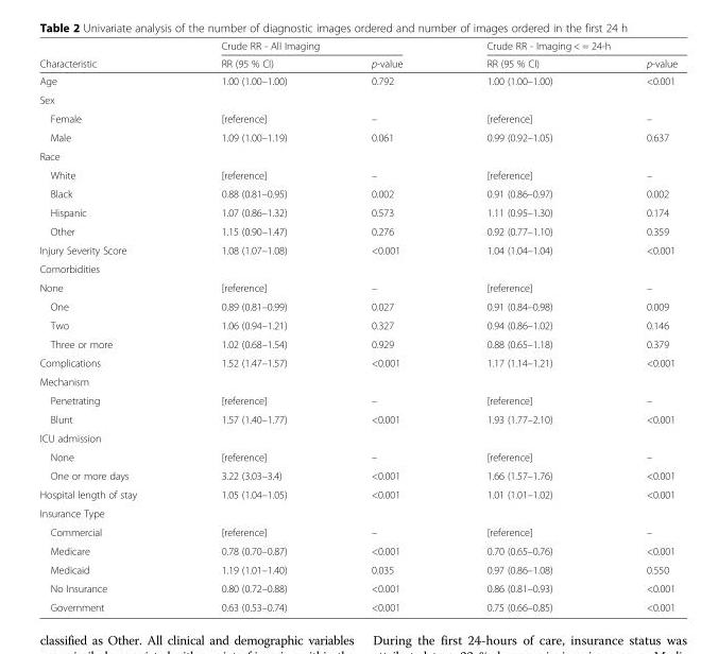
<table><thead><tr><td rowspan="2">Characteristic</td><td colspan="2">Crude RR - All Imaging</td><td colspan="2">Crude RR - Imaging &lt; = 24-h</td></tr><tr><td>RR (95 % CI)</td><td>p-value</td><td>RR (95 % CI)</td><td>p-value</td></tr></thead><tbody><tr><td>Age</td><td>1.00 (1.00–1.00)</td><td>0.792</td><td>1.00 (1.00–1.00)</td><td>&lt;0.001</td></tr><tr><td colspan="5">Sex</td></tr><tr><td>Female</td><td>[reference]</td><td>–</td><td>[reference]</td><td>–</td></tr><tr><td>Male</td><td>1.09 (1.00–1.19)</td><td>0.061</td><td>0.99 (0.92–1.05)</td><td>0.637</td></tr><tr><td colspan="5">Race</td></tr><tr><td>White</td><td>[reference]</td><td>–</td><td>[reference]</td><td>–</td></tr><tr><td>Black</td><td>0.88 (0.81–0.95)</td><td>0.002</td><td>0.91 (0.86–0.97)</td><td>0.002</td></tr><tr><td>Hispanic</td><td>1.07 (0.86–1.32)</td><td>0.573</td><td>1.11 (0.95–1.30)</td><td>0.174</td></tr><tr><td>Other</td><td>1.15 (0.90–1.47)</td><td>0.276</td><td>0.92 (0.77–1.10)</td><td>0.359</td></tr><tr><td>Injury Severity Score</td><td>1.08 (1.07–1.08)</td><td>&lt;0.001</td><td>1.04 (1.04–1.04)</td><td>&lt;0.001</td></tr><tr><td colspan="5">Comorbidities</td></tr><tr><td>None</td><td>[reference]</td><td>–</td><td>[reference]</td><td>–</td></tr><tr><td>One</td><td>0.89 (0.81–0.99)</td><td>0.027</td><td>0.91 (0.84–0.98)</td><td>0.009</td></tr><tr><td>Two</td><td>1.06 (0.94–1.21)</td><td>0.327</td><td>0.94 (0.86–1.02)</td><td>0.146</td></tr><tr><td>Three or more</td><td>1.02 (0.68–1.54)</td><td>0.929</td><td>0.88 (0.65–1.18)</td><td>0.379</td></tr><tr><td>Complications</td><td>1.52 (1.47–1.57)</td><td>&lt;0.001</td><td>1.17 (1.14–1.21)</td><td>&lt;0.001</td></tr><tr><td colspan="5">Mechanism</td></tr><tr><td>Penetrating</td><td>[reference]</td><td>–</td><td>[reference]</td><td>–</td></tr><tr><td>Blunt</td><td>1.57 (1.40–1.77)</td><td>&lt;0.001</td><td>1.93 (1.77–2.10)</td><td>&lt;0.001</td></tr><tr><td colspan="5">ICU admission</td></tr><tr><td>None</td><td>[reference]</td><td>–</td><td>[reference]</td><td>–</td></tr><tr><td>One or more days</td><td>3.22 (3.03–3.4)</td><td>&lt;0.001</td><td>1.66 (1.57–1.76)</td><td>&lt;0.001</td></tr><tr><td>Hospital length of stay</td><td>1.05 (1.04–1.05)</td><td>&lt;0.001</td><td>1.01 (1.01–1.02)</td><td>&lt;0.001</td></tr><tr><td colspan="5">Insurance Type</td></tr><tr><td>Commercial</td><td>[reference]</td><td>–</td><td>[reference]</td><td>–</td></tr><tr><td>Medicare</td><td>0.78 (0.70–0.87)</td><td>&lt;0.001</td><td>0.70 (0.65–0.76)</td><td>&lt;0.001</td></tr><tr><td>Medicaid</td><td>1.19 (1.01–1.40)</td><td>0.035</td><td>0.97 (0.86–1.08)</td><td>0.550</td></tr><tr><td>No Insurance</td><td>0.80 (0.72–0.88)</td><td>&lt;0.001</td><td>0.86 (0.81–0.93)</td><td>&lt;0.001</td></tr><tr><td>Government</td><td>0.63 (0.53–0.74)</td><td>&lt;0.001</td><td>0.75 (0.66–0.85)</td><td>&lt;0.001</td></tr></tbody></table>